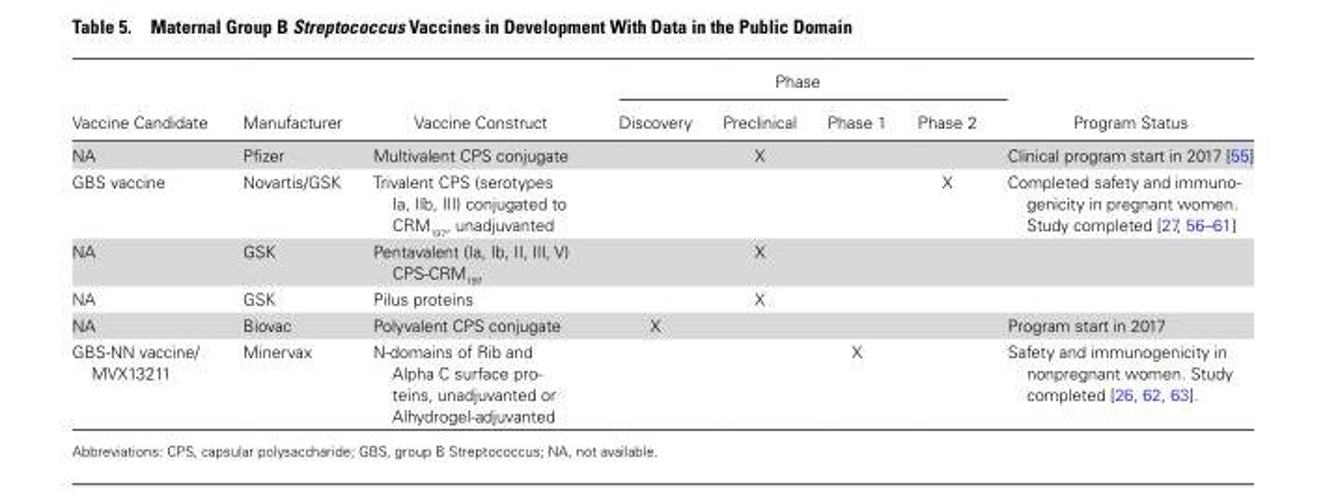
<table><thead><tr><td rowspan="2">Vaccine Candidate</td><td rowspan="2">Manufacturer</td><td rowspan="2">Vaccine Construct</td><td colspan="4">Phase</td><td rowspan="2">Program Status</td></tr><tr><td>Discovery</td><td>Preclinical</td><td>Phase 1</td><td>Phase 2</td></tr></thead><tbody><tr><td>NA</td><td>Pfizer</td><td>Multivalent CPS conjugate</td><td></td><td>X</td><td></td><td></td><td>Clinical program start in 2017 [55]</td></tr><tr><td>GBS vaccine</td><td>Novartis/GSK</td><td>Trivalent CPS (serotypes Ia, IIb, III) conjugated to CRM<sub>197</sub>, unadjuvanted</td><td></td><td></td><td></td><td>X</td><td>Completed safety and immuno- genicity in pregnant women. Study completed [27, 56–61]</td></tr><tr><td>NA</td><td>GSK</td><td>Pentavalent (Ia, Ib, II, III, V) CPS-CRM<sub>197</sub></td><td></td><td>X</td><td></td><td></td><td></td></tr><tr><td>NA</td><td>GSK</td><td>Pilus proteins</td><td></td><td>X</td><td></td><td></td><td></td></tr><tr><td>NA</td><td>Biovac</td><td>Polyvalent CPS conjugate</td><td>X</td><td></td><td></td><td></td><td>Program start in 2017</td></tr><tr><td>GBS-NN vaccine/ MVX13211</td><td>Minervax</td><td>N-domains of Rib and Alpha C surface pro- teins, unadjuvanted or Alhydrogel-adjuvanted</td><td></td><td></td><td>X</td><td></td><td>Safety and immunogenicity in nonpregnant women. Study completed [26, 62, 63].</td></tr></tbody></table>